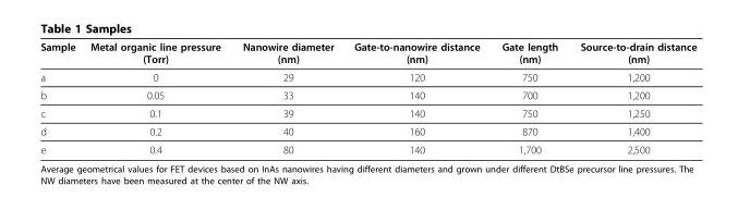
<table><thead><tr><td>Sample</td><td>Metal organic line pressure (Torr)</td><td>Nanowire diameter (nm)</td><td>Gate-to-nanowire distance (nm)</td><td>Gate length (nm)</td><td>Source-to-drain distance (nm)</td></tr></thead><tbody><tr><td>a</td><td>0</td><td>29</td><td>120</td><td>750</td><td>1,200</td></tr><tr><td>b</td><td>0.05</td><td>33</td><td>140</td><td>700</td><td>1,200</td></tr><tr><td>c</td><td>0.1</td><td>39</td><td>140</td><td>750</td><td>1,250</td></tr><tr><td>d</td><td>0.2</td><td>40</td><td>160</td><td>870</td><td>1,400</td></tr><tr><td>e</td><td>0.4</td><td>80</td><td>140</td><td>1,700</td><td>2,500</td></tr></tbody></table>